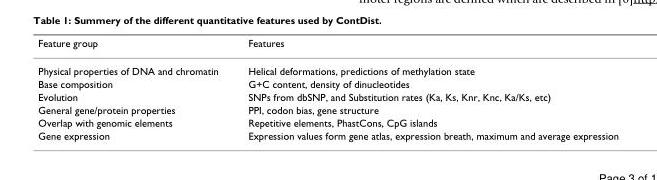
<table><thead><tr><td>Feature group</td><td>Features</td></tr></thead><tbody><tr><td>Physical properties of DNA and chromatin</td><td>Helical deformations, predictions of methylation state</td></tr><tr><td>Base composition</td><td>G+C content, density of dinucleotides</td></tr><tr><td>Evolution</td><td>SNPs from dbSNP, and Substitution rates (Ka, Ks, Knr, Knc, Ka/Ks, etc)</td></tr><tr><td>General gene/protein properties</td><td>PPI, codon bias, gene structure</td></tr><tr><td>Overlap with genomic elements</td><td>Repetitive elements, PhastCons, CpG islands</td></tr><tr><td>Gene expression</td><td>Expression values form gene atlas, expression breath, maximum and average expression</td></tr></tbody></table>